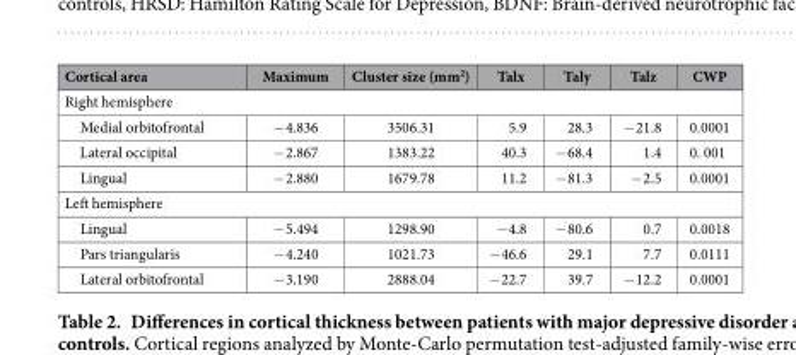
<table><thead><tr><td>Cortical area</td><td>Maximum</td><td>Cluster size (mm<sup>2</sup>)</td><td>Talx</td><td>Taly</td><td>Talz</td><td>CWP</td></tr></thead><tbody><tr><td colspan="7">Right hemisphere</td></tr><tr><td>Medial orbitofrontal</td><td>− 4.836</td><td>3506.31</td><td>5.9</td><td>28.3</td><td>− 21.8</td><td>0.0001</td></tr><tr><td>Lateral occipital</td><td>− 2.867</td><td>1383.22</td><td>40.3</td><td>− 68.4</td><td>1.4</td><td>0. 001</td></tr><tr><td>Lingual</td><td>− 2.880</td><td>1679.78</td><td>11.2</td><td>− 81.3</td><td>− 2.5</td><td>0.0001</td></tr><tr><td colspan="7">Left hemisphere</td></tr><tr><td>Lingual</td><td>− 5.494</td><td>1298.90</td><td>− 4.8</td><td>− 80.6</td><td>0.7</td><td>0.0018</td></tr><tr><td>Pars triangularis</td><td>− 4.240</td><td>1021.73</td><td>− 46.6</td><td>29.1</td><td>7.7</td><td>0.0111</td></tr><tr><td>Lateral orbitofrontal</td><td>− 3.190</td><td>2888.04</td><td>− 22.7</td><td>39.7</td><td>− 12.2</td><td>0.0001</td></tr></tbody></table>